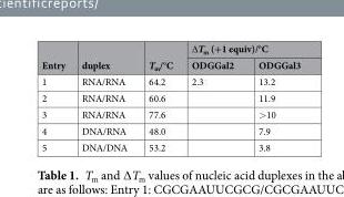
<table><thead><tr><td rowspan="2">Entry</td><td rowspan="2">duplex</td><td rowspan="2">T<sub>m</sub>/°C</td><td colspan="2">∆T<sub>m</sub> (+1 equiv)/°C</td></tr><tr><td>ODGGal2</td><td>ODGGal3</td></tr></thead><tbody><tr><td>1</td><td>RNA/RNA</td><td>64.2</td><td>2.3</td><td>13.2</td></tr><tr><td>2</td><td>RNA/RNA</td><td>60.6</td><td></td><td>11.9</td></tr><tr><td>3</td><td>RNA/RNA</td><td>77.6</td><td></td><td>&gt;10</td></tr><tr><td>4</td><td>DNA/RNA</td><td>48.0</td><td></td><td>7.9</td></tr><tr><td>5</td><td>DNA/DNA</td><td>53.2</td><td></td><td>3.8</td></tr></tbody></table>